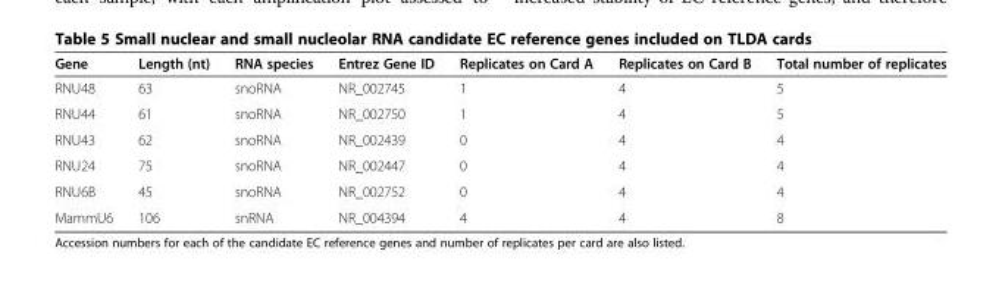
<table><thead><tr><td>Gene</td><td>Length (nt)</td><td>RNA species</td><td>Entrez Gene ID</td><td>Replicates on Card A</td><td>Replicates on Card B</td><td>Total number of replicates</td></tr></thead><tbody><tr><td>RNU48</td><td>63</td><td>snoRNA</td><td>NR_002745</td><td>1</td><td>4</td><td>5</td></tr><tr><td>RNU44</td><td>61</td><td>snoRNA</td><td>NR_002750</td><td>1</td><td>4</td><td>5</td></tr><tr><td>RNU43</td><td>62</td><td>snoRNA</td><td>NR_002439</td><td>0</td><td>4</td><td>4</td></tr><tr><td>RNU24</td><td>75</td><td>snoRNA</td><td>NR_002447</td><td>0</td><td>4</td><td>4</td></tr><tr><td>RNU6B</td><td>45</td><td>snoRNA</td><td>NR_002752</td><td>0</td><td>4</td><td>4</td></tr><tr><td>MammU6</td><td>106</td><td>snRNA</td><td>NR_004394</td><td>4</td><td>4</td><td>8</td></tr></tbody></table>